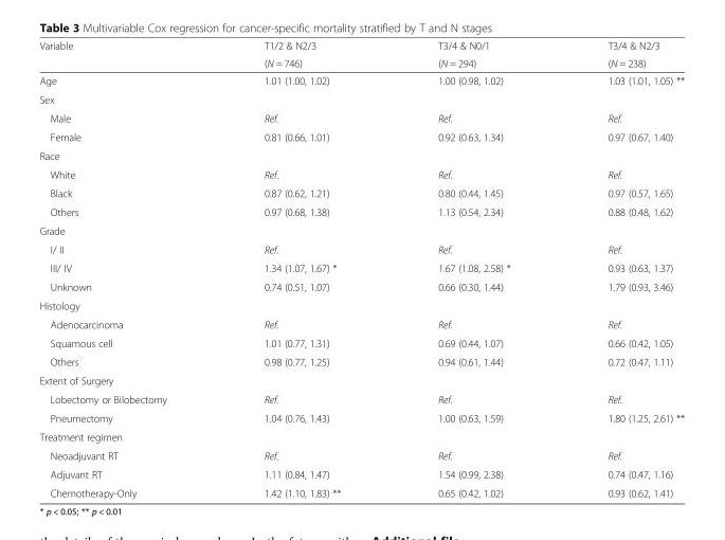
<table><thead><tr><td rowspan="2">Variable</td><td rowspan="2">T1/2 &amp; N2/3 (N = 746)</td><td rowspan="2">T3/4 &amp; N0/1 (N = 294)</td><td rowspan="2">T3/4 &amp; N2/3 (N = 238)</td></tr><tr></tr></thead><tbody><tr><td>Age</td><td>1.01 (1.00, 1.02)</td><td>1.00 (0.98, 1.02)</td><td>1.03 (1.01, 1.05) **</td></tr><tr><td colspan="4">Sex</td></tr><tr><td>Male</td><td>Ref.</td><td>Ref.</td><td>Ref.</td></tr><tr><td>Female</td><td>0.81 (0.66, 1.01)</td><td>0.92 (0.63, 1.34)</td><td>0.97 (0.67, 1.40)</td></tr><tr><td colspan="4">Race</td></tr><tr><td>White</td><td>Ref.</td><td>Ref.</td><td>Ref.</td></tr><tr><td>Black</td><td>0.87 (0.62, 1.21)</td><td>0.80 (0.44, 1.45)</td><td>0.97 (0.57, 1.65)</td></tr><tr><td>Others</td><td>0.97 (0.68, 1.38)</td><td>1.13 (0.54, 2.34)</td><td>0.88 (0.48, 1.62)</td></tr><tr><td colspan="4">Grade</td></tr><tr><td>I/ II</td><td>Ref.</td><td>Ref.</td><td>Ref.</td></tr><tr><td>III/ IV</td><td>1.34 (1.07, 1.67) *</td><td>1.67 (1.08, 2.58) *</td><td>0.93 (0.63, 1.37)</td></tr><tr><td>Unknown</td><td>0.74 (0.51, 1.07)</td><td>0.66 (0.30, 1.44)</td><td>1.79 (0.93, 3.46)</td></tr><tr><td colspan="4">Histology</td></tr><tr><td>Adenocarcinoma</td><td>Ref.</td><td>Ref.</td><td>Ref.</td></tr><tr><td>Squamous cell</td><td>1.01 (0.77, 1.31)</td><td>0.69 (0.44, 1.07)</td><td>0.66 (0.42, 1.05)</td></tr><tr><td>Others</td><td>0.98 (0.77, 1.25)</td><td>0.94 (0.61, 1.44)</td><td>0.72 (0.47, 1.11)</td></tr><tr><td colspan="4">Extent of Surgery</td></tr><tr><td>Lobectomy or Bilobectomy</td><td>Ref.</td><td>Ref.</td><td>Ref.</td></tr><tr><td>Pneumectomy</td><td>1.04 (0.76, 1.43)</td><td>1.00 (0.63, 1.59)</td><td>1.80 (1.25, 2.61) **</td></tr><tr><td colspan="4">Treatment regimen</td></tr><tr><td>Neoadjuvant RT</td><td>Ref.</td><td>Ref.</td><td>Ref.</td></tr><tr><td>Adjuvant RT</td><td>1.11 (0.84, 1.47)</td><td>1.54 (0.99, 2.38)</td><td>0.74 (0.47, 1.16)</td></tr><tr><td>Chemotherapy-Only</td><td>1.42 (1.10, 1.83) **</td><td>0.65 (0.42, 1.02)</td><td>0.93 (0.62, 1.41)</td></tr></tbody></table>